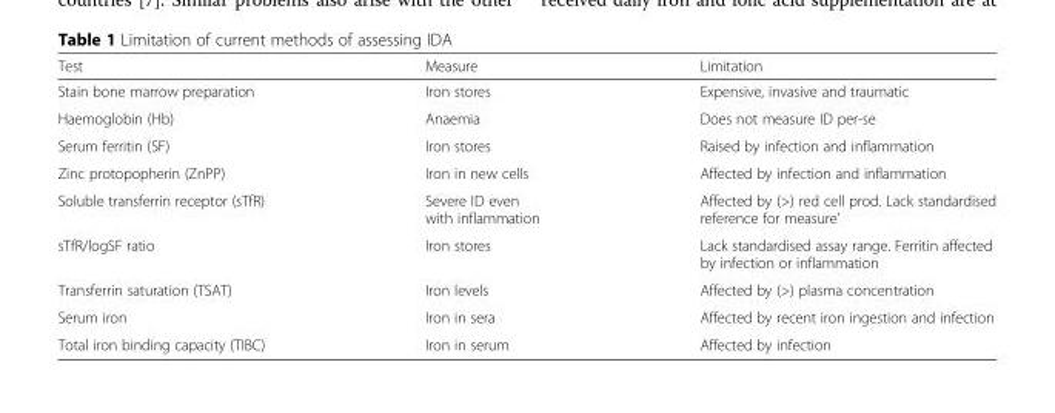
<table><thead><tr><td>Test</td><td>Measure</td><td>Limitation</td></tr></thead><tbody><tr><td>Stain bone marrow preparation</td><td>Iron stores</td><td>Expensive, invasive and traumatic</td></tr><tr><td>Haemoglobin (Hb)</td><td>Anaemia</td><td>Does not measure ID per-se</td></tr><tr><td>Serum ferritin (SF)</td><td>Iron stores</td><td>Raised by infection and inflammation</td></tr><tr><td>Zinc protopopherin (ZnPP)</td><td>Iron in new cells</td><td>Affected by infection and inflammation</td></tr><tr><td>Soluble transferrin receptor (sTfR)</td><td>Severe ID even with inflammation</td><td>Affected by (&gt;) red cell prod. Lack standardised reference for measure’</td></tr><tr><td>sTfR/logSF ratio</td><td>Iron stores</td><td>Lack standardised assay range. Ferritin affected by infection or inflammation</td></tr><tr><td>Transferrin saturation (TSAT)</td><td>Iron levels</td><td>Affected by (&gt;) plasma concentration</td></tr><tr><td>Serum iron</td><td>Iron in sera</td><td>Affected by recent iron ingestion and infection</td></tr><tr><td>Total iron binding capacity (TIBC)</td><td>Iron in serum</td><td>Affected by infection</td></tr></tbody></table>